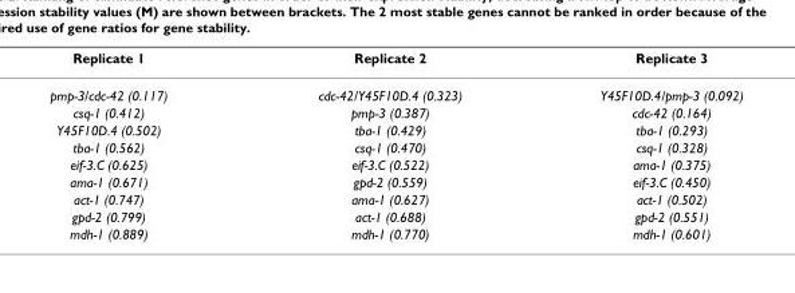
<table><thead><tr><td>Replicate 1</td><td>Replicate 2</td><td>Replicate 3</td></tr></thead><tbody><tr><td>pmp-3/cdc-42 (0.117)</td><td>cdc-42/Y45F10D.4 (0.323)</td><td>Y45F10D.4/pmp-3 (0.092)</td></tr><tr><td>csq-1 (0.412)</td><td>pmp-3 (0.387)</td><td>cdc-42 (0.164)</td></tr><tr><td>Y45F10D.4 (0.502)</td><td>tba-1 (0.429)</td><td>tba-1 (0.293)</td></tr><tr><td>tba-1 (0.562)</td><td>csq-1 (0.470)</td><td>csq-1 (0.328)</td></tr><tr><td>eif-3.C (0.625)</td><td>eif-3.C (0.522)</td><td>ama-1 (0.375)</td></tr><tr><td>ama-1 (0.671)</td><td>gpd-2 (0.559)</td><td>eif-3.C (0.450)</td></tr><tr><td>act-1 (0.747)</td><td>ama-1 (0.627)</td><td>act-1 (0.502)</td></tr><tr><td>gpd-2 (0.799)</td><td>act-1 (0.688)</td><td>gpd-2 (0.551)</td></tr><tr><td>mdh-1 (0.889)</td><td>mdh-1 (0.770)</td><td>mdh-1 (0.601)</td></tr></tbody></table>